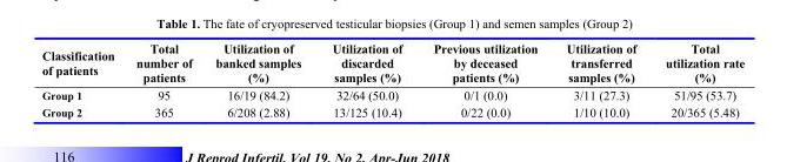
<table><thead><tr><td>Classification of patients</td><td>Total number of patients</td><td>Utilization of banked samples (%)</td><td>Utilization of discarded samples (%)</td><td>Previous utilization by deceased patients (%)</td><td>Utilization of transferred samples (%)</td><td>Total utilization rate (%)</td></tr></thead><tbody><tr><td>Group 1</td><td>95</td><td>16/19 (84.2)</td><td>32/64 (50.0)</td><td>0/1 (0.0)</td><td>3/11 (27.3)</td><td>51/95 (53.7)</td></tr><tr><td>Group 2</td><td>365</td><td>6/208 (2.88)</td><td>13/125 (10.4)</td><td>0/22 (0.0)</td><td>1/10 (10.0)</td><td>20/365 (5.48)</td></tr></tbody></table>